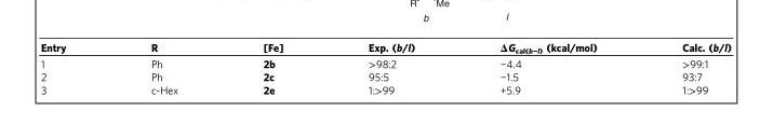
<table><thead><tr><td>Entry</td><td>R</td><td>[Fe]</td><td>Exp. (b/l)</td><td>ΔG<sub>cal(b−l)</sub> (kcal/mol)</td><td>Calc. (b/l)</td></tr></thead><tbody><tr><td>1</td><td>Ph</td><td>2b</td><td>&gt;98:2</td><td>−4.4</td><td>&gt;99:1</td></tr><tr><td>2</td><td>Ph</td><td>2c</td><td>95:5</td><td>−1.5</td><td>93:7</td></tr><tr><td>3</td><td>c-Hex</td><td>2e</td><td>1:&gt;99</td><td>+5.9</td><td>1:&gt;99</td></tr></tbody></table>